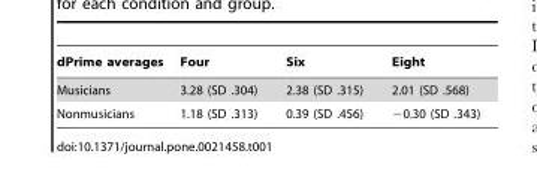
<table><thead><tr><td>dPrime averages</td><td>Four</td><td>Six</td><td>Eight</td></tr></thead><tbody><tr><td>Musicians</td><td>3.28 (SD .304)</td><td>2.38 (SD .315)</td><td>2.01 (SD .568)</td></tr><tr><td>Nonmusicians</td><td>1.18 (SD .313)</td><td>0.39 (SD .456)</td><td>−0.30 (SD .343)</td></tr></tbody></table>